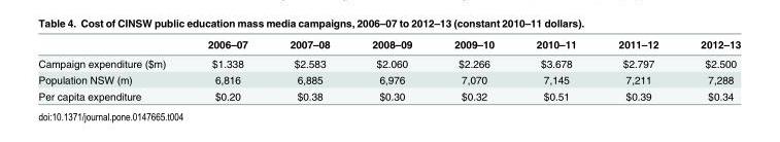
<table><thead><tr><td></td><td>2006–07</td><td>2007–08</td><td>2008–09</td><td>2009–10</td><td>2010–11</td><td>2011–12</td><td>2012–13</td></tr></thead><tbody><tr><td>Campaign expenditure ($m)</td><td>$1.338</td><td>$2.583</td><td>$2.060</td><td>$2.266</td><td>$3.678</td><td>$2.797</td><td>$2.500</td></tr><tr><td>Population NSW (m)</td><td>6,816</td><td>6,885</td><td>6,976</td><td>7,070</td><td>7,145</td><td>7,211</td><td>7,288</td></tr><tr><td>Per capita expenditure</td><td>$0.20</td><td>$0.38</td><td>$0.30</td><td>$0.32</td><td>$0.51</td><td>$0.39</td><td>$0.34</td></tr></tbody></table>